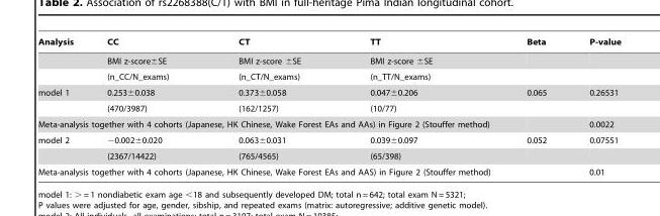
<table><thead><tr><td>Analysis</td><td>CC</td><td>CT</td><td>TT</td><td>Beta</td><td>P-value</td></tr></thead><tbody><tr><td></td><td>BMI z-score±SE</td><td>BMI z-score ±SE</td><td>BMI z-score ±SE</td><td></td><td></td></tr><tr><td></td><td>(n_CC/N_exams)</td><td>(n_CT/N_exams)</td><td>(n_TT/N_exams)</td><td></td><td></td></tr><tr><td rowspan="2">model 1</td><td>0.253±0.038</td><td>0.373±0.058</td><td>0.047±0.206</td><td>0.065</td><td>0.26531</td></tr><tr><td>(470/3987)</td><td>(162/1257)</td><td>(10/77)</td><td></td><td></td></tr><tr><td colspan="4">Meta-analysis together with 4 cohorts (Japanese, HK Chinese, Wake Forest EAs and AAs) in Figure 2 (Stouffer method)</td><td></td><td>0.0022</td></tr><tr><td rowspan="2">model 2</td><td>−0.002±0.020</td><td>0.063±0.031</td><td>0.039±0.097</td><td>0.052</td><td>0.07551</td></tr><tr><td>(2367/14422)</td><td>(765/4565)</td><td>(65/398)</td><td></td><td></td></tr><tr><td colspan="4">Meta-analysis together with 4 cohorts (Japanese, HK Chinese, Wake Forest EAs and AAS) in Figure 2 (Stouffer method)</td><td></td><td>0.01</td></tr></tbody></table>